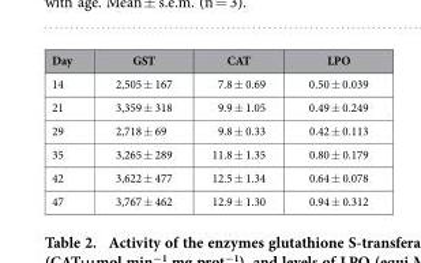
<table><thead><tr><td>Day</td><td>GST</td><td>CAT</td><td>LPO</td></tr></thead><tbody><tr><td>14</td><td>2,505 ± 167</td><td>7.8 ± 0.69</td><td>0.50 ± 0.039</td></tr><tr><td>21</td><td>3,359 ± 318</td><td>9.9 ± 1.05</td><td>0.49 ± 0.249</td></tr><tr><td>29</td><td>2,718 ± 69</td><td>9.8 ± 0.33</td><td>0.42 ± 0.113</td></tr><tr><td>35</td><td>3,265 ± 289</td><td>11.8 ± 1.35</td><td>0.80 ± 0.179</td></tr><tr><td>42</td><td>3,622 ± 477</td><td>12.5 ± 1.34</td><td>0.64 ± 0.078</td></tr><tr><td>47</td><td>3,767 ± 462</td><td>12.9 ± 1.30</td><td>0.94 ± 0.312</td></tr></tbody></table>